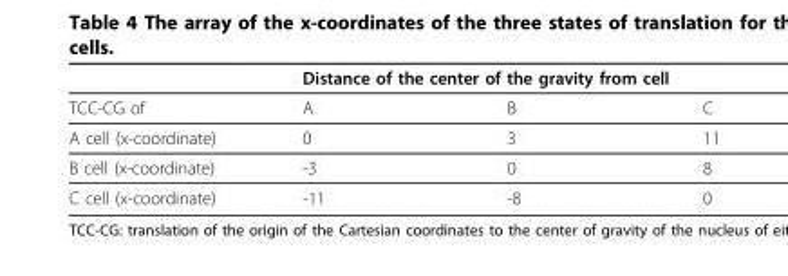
<table><thead><tr><td rowspan="2">TCC-CG of</td><td colspan="3">Distance of the center of the gravity from cell</td></tr><tr><td>A</td><td>B</td><td>C</td></tr></thead><tbody><tr><td>A cell (x-coordinate)</td><td>0</td><td>3</td><td>11</td></tr><tr><td>B cell (x-coordinate)</td><td>-3</td><td>0</td><td>8</td></tr><tr><td>C cell (x-coordinate)</td><td>-11</td><td>-8</td><td>0</td></tr></tbody></table>